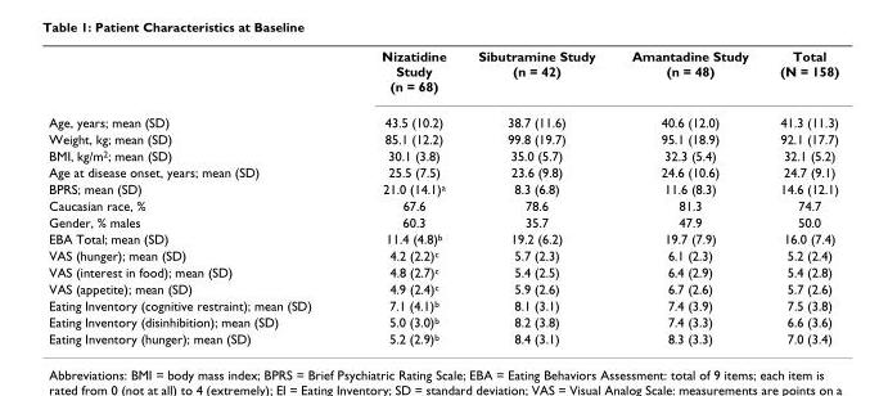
<table><thead><tr><td></td><td>Nizatidine Study (n = 68)</td><td>Sibutramine Study (n = 42)</td><td>Amantadine Study (n = 48)</td><td>Total (N = 158)</td></tr></thead><tbody><tr><td>Age, years; mean (SD)</td><td>43.5 (10.2)</td><td>38.7 (11.6)</td><td>40.6 (12.0)</td><td>41.3 (11.3)</td></tr><tr><td>Weight, kg; mean (SD)</td><td>85.1 (12.2)</td><td>99.8 (19.7)</td><td>95.1 (18.9)</td><td>92.1 (17.7)</td></tr><tr><td>BMI, kg/m<sup>2</sup>; mean (SD)</td><td>30.1 (3.8)</td><td>35.0 (5.7)</td><td>32.3 (5.4)</td><td>32.1 (5.2)</td></tr><tr><td>Age at disease onset, years; mean (SD)</td><td>25.5 (7.5)</td><td>23.6 (9.8)</td><td>24.6 (10.6)</td><td>24.7 (9.1)</td></tr><tr><td>BPRS; mean (SD)</td><td>21.0 (14.1)<sup>a</sup></td><td>8.3 (6.8)</td><td>11.6 (8.3)</td><td>14.6 (12.1)</td></tr><tr><td>Caucasian race, %</td><td>67.6</td><td>78.6</td><td>81.3</td><td>74.7</td></tr><tr><td>Gender, % males</td><td>60.3</td><td>35.7</td><td>47.9</td><td>50.0</td></tr><tr><td>EBA Total; mean (SD)</td><td>11.4 (4.8)<sup>b</sup></td><td>19.2 (6.2)</td><td>19.7 (7.9)</td><td>16.0 (7.4)</td></tr><tr><td>VAS (hunger); mean (SD)</td><td>4.2 (2.2)<sup>c</sup></td><td>5.7 (2.3)</td><td>6.1 (2.3)</td><td>5.2 (2.4)</td></tr><tr><td>VAS (interest in food); mean (SD)</td><td>4.8 (2.7)<sup>c</sup></td><td>5.4 (2.5)</td><td>6.4 (2.9)</td><td>5.4 (2.8)</td></tr><tr><td>VAS (appetite); mean (SD)</td><td>4.9 (2.4)<sup>c</sup></td><td>5.9 (2.6)</td><td>6.7 (2.6)</td><td>5.7 (2.6)</td></tr><tr><td>Eating Inventory (cognitive restraint); mean (SD)</td><td>7.1 (4.1)<sup>b</sup></td><td>8.1 (3.1)</td><td>7.4 (3.9)</td><td>7.5 (3.8)</td></tr><tr><td>Eating Inventory (disinhibition); mean (SD)</td><td>5.0 (3.0)<sup>b</sup></td><td>8.2 (3.8)</td><td>7.4 (3.3)</td><td>6.6 (3.6)</td></tr><tr><td>Eating Inventory (hunger); mean (SD)</td><td>5.2 (2.9)<sup>b</sup></td><td>8.4 (3.1)</td><td>8.3 (3.3)</td><td>7.0 (3.4)</td></tr></tbody></table>